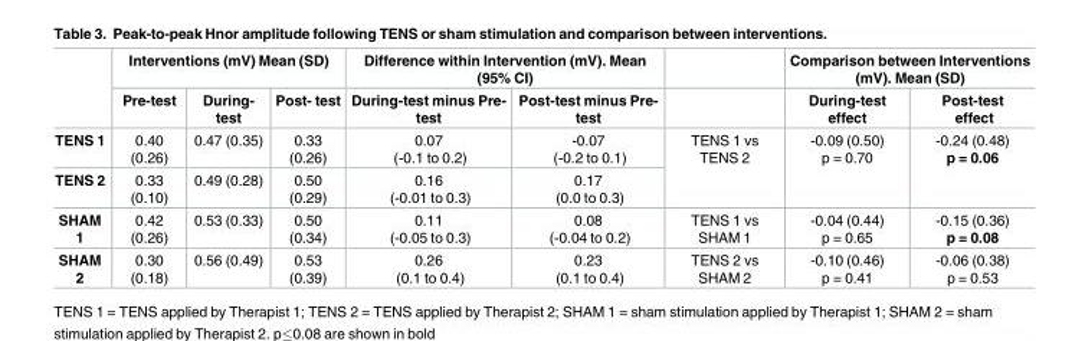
<table><thead><tr><td rowspan="2"></td><td colspan="3">Interventions (mV) Mean (SD)</td><td colspan="2">Difference within Intervention (mV). Mean (95% CI)</td><td rowspan="2"></td><td colspan="2">Comparison between Interventions (mV). Mean (SD)</td></tr><tr><td>Pre-test</td><td>During- test</td><td>Post- test</td><td>During-test minus Pre- test</td><td>Post-test minus Pre- test</td><td>During-test effect</td><td>Post-test effect</td></tr></thead><tbody><tr><td>TENS 1</td><td>0.40 (0.26)</td><td>0.47 (0.35)</td><td>0.33 (0.26)</td><td>0.07 (-0.1 to 0.2)</td><td>-0.07 (-0.2 to 0.1)</td><td rowspan="2">TENS 1 vs TENS 2</td><td rowspan="2">-0.09 (0.50) p = 0.70</td><td rowspan="2">-0.24 (0.48) p = 0.06</td></tr><tr><td>TENS 2</td><td>0.33 (0.10)</td><td>0.49 (0.28)</td><td>0.50 (0.29)</td><td>0.16 (-0.01 to 0.3)</td><td>0.17 (0.0 to 0.3)</td></tr><tr><td>SHAM 1</td><td>0.42 (0.26)</td><td>0.53 (0.33)</td><td>0.50 (0.34)</td><td>0.11 (-0.05 to 0.3)</td><td>0.08 (-0.04 to 0.2)</td><td>TENS 1 vs SHAM 1</td><td>-0.04 (0.44) p = 0.65</td><td>-0.15 (0.36) p = 0.08</td></tr><tr><td>SHAM 2</td><td>0.30 (0.18)</td><td>0.56 (0.49)</td><td>0.53 (0.39)</td><td>0.26 (0.1 to 0.4)</td><td>0.23 (0.1 to 0.4)</td><td>TENS 2 vs SHAM 2</td><td>-0.10 (0.46) p = 0.41</td><td>-0.06 (0.38) p = 0.53</td></tr></tbody></table>